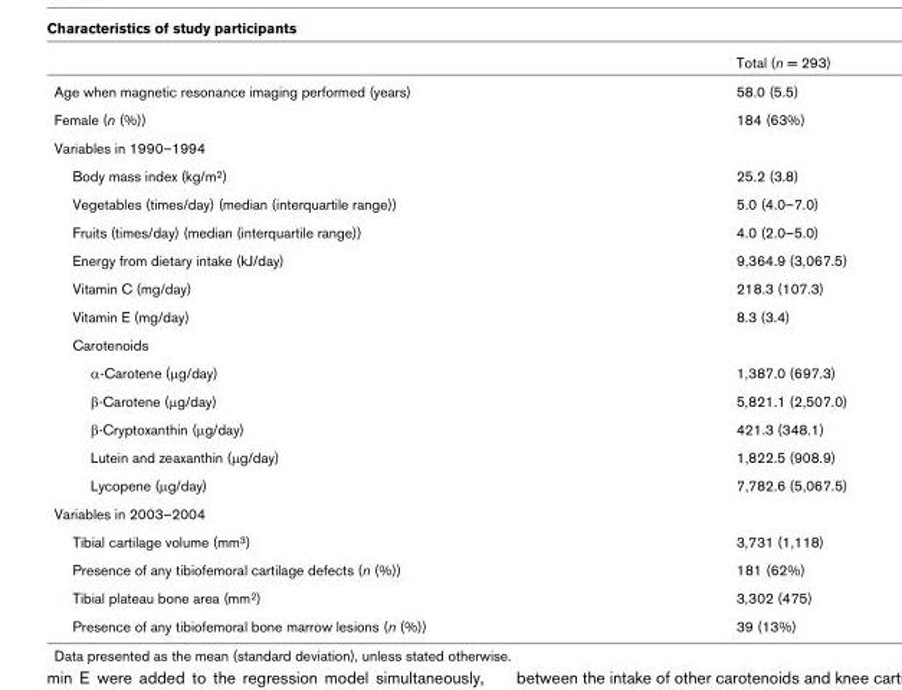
<table><thead><tr><td></td><td>Total (n = 293)</td></tr></thead><tbody><tr><td>Age when magnetic resonance imaging performed (years)</td><td>58.0 (5.5)</td></tr><tr><td>Female (n (%))</td><td>184 (63%)</td></tr><tr><td colspan="2">Variables in 1990–1994</td></tr><tr><td>Body mass index (kg/m<sup>2</sup>)</td><td>25.2 (3.8)</td></tr><tr><td>Vegetables (times/day) (median (interquartile range))</td><td>5.0 (4.0–7.0)</td></tr><tr><td>Fruits (times/day) (median (interquartile range))</td><td>4.0 (2.0–5.0)</td></tr><tr><td>Energy from dietary intake (kJ/day)</td><td>9,364.9 (3,067.5)</td></tr><tr><td>Vitamin C (mg/day)</td><td>218.3 (107.3)</td></tr><tr><td>Vitamin E (mg/day)</td><td>8.3 (3.4)</td></tr><tr><td colspan="2">Carotenoids</td></tr><tr><td>α-Carotene (μg/day)</td><td>1,387.0 (697.3)</td></tr><tr><td>β-Carotene (μg/day)</td><td>5,821.1 (2,507.0)</td></tr><tr><td>β-Cryptoxanthin (μg/day)</td><td>421.3 (348.1)</td></tr><tr><td>Lutein and zeaxanthin (μg/day)</td><td>1,822.5 (908.9)</td></tr><tr><td>Lycopene (μg/day)</td><td>7,782.6 (5,067.5)</td></tr><tr><td colspan="2">Variables in 2003–2004</td></tr><tr><td>Tibial cartilage volume (mm<sup>3</sup>)</td><td>3,731 (1,118)</td></tr><tr><td>Presence of any tibiofemoral cartilage defects (n (%))</td><td>181 (62%)</td></tr><tr><td>Tibial plateau bone area (mm<sup>2</sup>)</td><td>3,302 (475)</td></tr><tr><td>Presence of any tibiofemoral bone marrow lesions (n (%))</td><td>39 (13%)</td></tr></tbody></table>